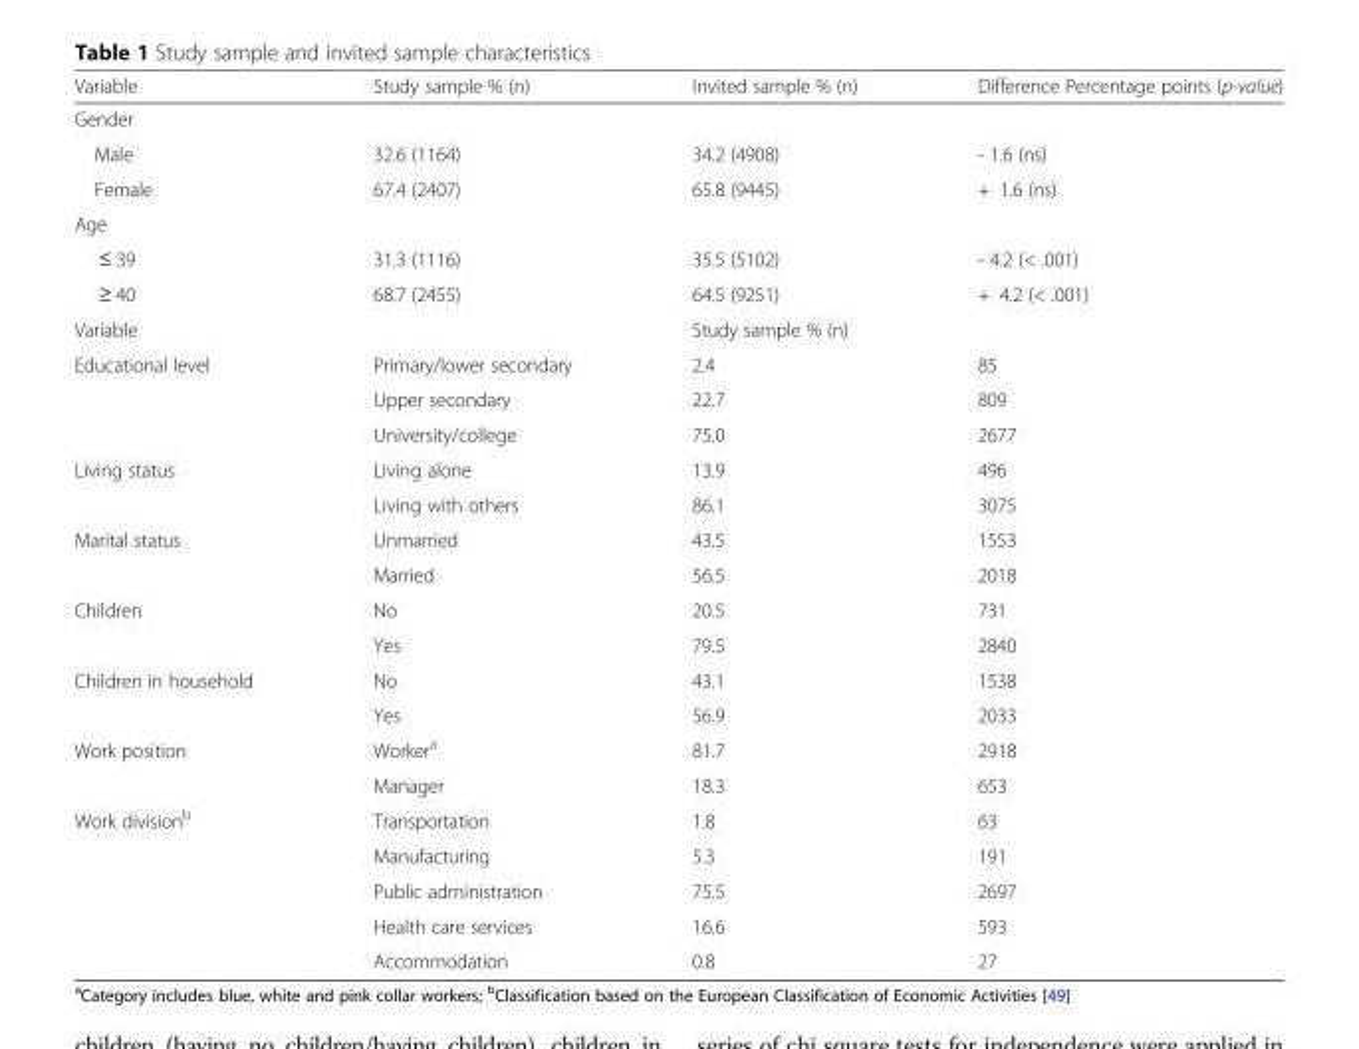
<table><thead><tr><td>Variable</td><td>Study sample % (n)</td><td>Invited sample % (n)</td><td>Difference Percentage points (p-value)</td></tr></thead><tbody><tr><td colspan="4">Gender</td></tr><tr><td>Male</td><td>32.6 (1164)</td><td>34.2 (4908)</td><td>- 1.6 (ns)</td></tr><tr><td>Female</td><td>67.4 (2407)</td><td>65.8 (9445)</td><td>+ 1.6 (ns)</td></tr><tr><td colspan="4">Age</td></tr><tr><td>≤ 39</td><td>31.3 (1116)</td><td>35.5 (5102)</td><td>- 4.2 (&lt; .001)</td></tr><tr><td>≥ 40</td><td>68.7 (2455)</td><td>64.5 (9251)</td><td>+ 4.2 (&lt; .001)</td></tr><tr><td colspan="2">Variable</td><td colspan="2">Study sample % (n)</td></tr><tr><td rowspan="3">Educational level</td><td>Primary/lower secondary</td><td>2.4</td><td>85</td></tr><tr><td>Upper secondary</td><td>22.7</td><td>809</td></tr><tr><td>University/college</td><td>75.0</td><td>2677</td></tr><tr><td rowspan="2">Living status</td><td>Living alone</td><td>13.9</td><td>496</td></tr><tr><td>Living with others</td><td>86.1</td><td>3075</td></tr><tr><td rowspan="2">Marital status</td><td>Unmarried</td><td>43.5</td><td>1553</td></tr><tr><td>Married</td><td>56.5</td><td>2018</td></tr><tr><td rowspan="2">Children</td><td>No</td><td>20.5</td><td>731</td></tr><tr><td>Yes</td><td>79.5</td><td>2840</td></tr><tr><td rowspan="2">Children in household</td><td>No</td><td>43.1</td><td>1538</td></tr><tr><td>Yes</td><td>56.9</td><td>2033</td></tr><tr><td rowspan="2">Work position</td><td>Worker<sup>a</sup></td><td>81.7</td><td>2918</td></tr><tr><td>Manager</td><td>18.3</td><td>653</td></tr><tr><td rowspan="5">Work division<sup>b</sup></td><td>Transportation</td><td>1.8</td><td>63</td></tr><tr><td>Manufacturing</td><td>5.3</td><td>191</td></tr><tr><td>Public administration</td><td>75.5</td><td>2697</td></tr><tr><td>Health care services</td><td>16.6</td><td>593</td></tr><tr><td>Accommodation</td><td>0.8</td><td>27</td></tr></tbody></table>